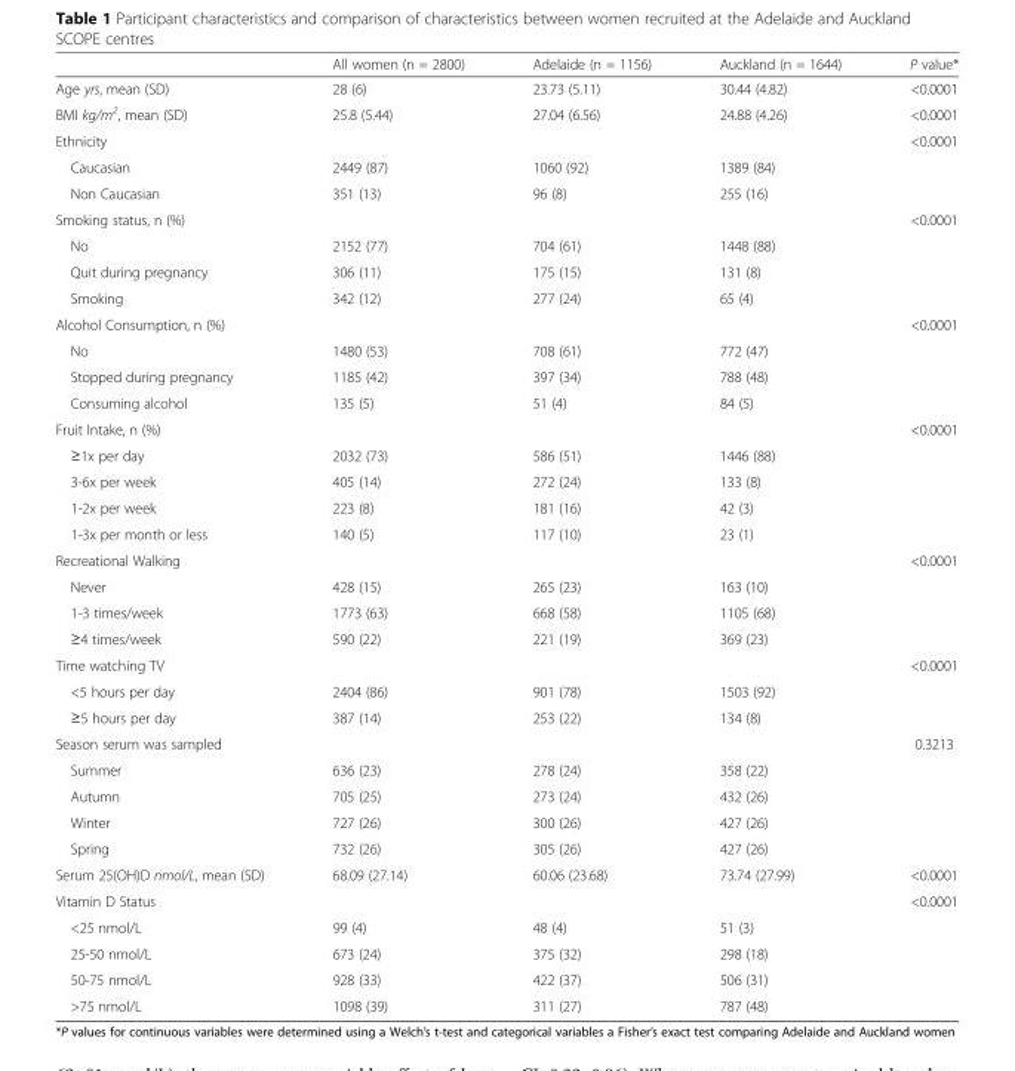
<table><thead><tr><td></td><td>All women (n = 2800)</td><td>Adelaide (n = 1156)</td><td>Auckland (n = 1644)</td><td>P value*</td></tr></thead><tbody><tr><td>Age yrs, mean (SD)</td><td>28 (6)</td><td>23.73 (5.11)</td><td>30.44 (4.82)</td><td>&lt;0.0001</td></tr><tr><td>BMI kg/m<sup>2</sup>, mean (SD)</td><td>25.8 (5.44)</td><td>27.04 (6.56)</td><td>24.88 (4.26)</td><td>&lt;0.0001</td></tr><tr><td>Ethnicity</td><td></td><td></td><td></td><td>&lt;0.0001</td></tr><tr><td>Caucasian</td><td>2449 (87)</td><td>1060 (92)</td><td>1389 (84)</td><td></td></tr><tr><td>Non Caucasian</td><td>351 (13)</td><td>96 (8)</td><td>255 (16)</td><td></td></tr><tr><td>Smoking status, n (%)</td><td></td><td></td><td></td><td>&lt;0.0001</td></tr><tr><td>No</td><td>2152 (77)</td><td>704 (61)</td><td>1448 (88)</td><td></td></tr><tr><td>Quit during pregnancy</td><td>306 (11)</td><td>175 (15)</td><td>131 (8)</td><td></td></tr><tr><td>Smoking</td><td>342 (12)</td><td>277 (24)</td><td>65 (4)</td><td></td></tr><tr><td>Alcohol Consumption, n (%)</td><td></td><td></td><td></td><td>&lt;0.0001</td></tr><tr><td>No</td><td>1480 (53)</td><td>708 (61)</td><td>772 (47)</td><td></td></tr><tr><td>Stopped during pregnancy</td><td>1185 (42)</td><td>397 (34)</td><td>788 (48)</td><td></td></tr><tr><td>Consuming alcohol</td><td>135 (5)</td><td>51 (4)</td><td>84 (5)</td><td></td></tr><tr><td>Fruit Intake, n (%)</td><td></td><td></td><td></td><td>&lt;0.0001</td></tr><tr><td>≥1x per day</td><td>2032 (73)</td><td>586 (51)</td><td>1446 (88)</td><td></td></tr><tr><td>3-6x per week</td><td>405 (14)</td><td>272 (24)</td><td>133 (8)</td><td></td></tr><tr><td>1-2x per week</td><td>223 (8)</td><td>181 (16)</td><td>42 (3)</td><td></td></tr><tr><td>1-3x per month or less</td><td>140 (5)</td><td>117 (10)</td><td>23 (1)</td><td></td></tr><tr><td>Recreational Walking</td><td></td><td></td><td></td><td>&lt;0.0001</td></tr><tr><td>Never</td><td>428 (15)</td><td>265 (23)</td><td>163 (10)</td><td></td></tr><tr><td>1-3 times/week</td><td>1773 (63)</td><td>668 (58)</td><td>1105 (68)</td><td></td></tr><tr><td>≥4 times/week</td><td>590 (22)</td><td>221 (19)</td><td>369 (23)</td><td></td></tr><tr><td>Time watching TV</td><td></td><td></td><td></td><td>&lt;0.0001</td></tr><tr><td>&lt;5 hours per day</td><td>2404 (86)</td><td>901 (78)</td><td>1503 (92)</td><td></td></tr><tr><td>≥5 hours per day</td><td>387 (14)</td><td>253 (22)</td><td>134 (8)</td><td></td></tr><tr><td>Season serum was sampled</td><td></td><td></td><td></td><td>0.3213</td></tr><tr><td>Summer</td><td>636 (23)</td><td>278 (24)</td><td>358 (22)</td><td></td></tr><tr><td>Autumn</td><td>705 (25)</td><td>273 (24)</td><td>432 (26)</td><td></td></tr><tr><td>Winter</td><td>727 (26)</td><td>300 (26)</td><td>427 (26)</td><td></td></tr><tr><td>Spring</td><td>732 (26)</td><td>305 (26)</td><td>427 (26)</td><td></td></tr><tr><td>Serum 25(OH)D nmol/L, mean (SD)</td><td>68.09 (27.14)</td><td>60.06 (23.68)</td><td>73.74 (27.99)</td><td>&lt;0.0001</td></tr><tr><td>Vitamin D Status</td><td></td><td></td><td></td><td>&lt;0.0001</td></tr><tr><td>&lt;25 nmol/L</td><td>99 (4)</td><td>48 (4)</td><td>51 (3)</td><td></td></tr><tr><td>25-50 nmol/L</td><td>673 (24)</td><td>375 (32)</td><td>298 (18)</td><td></td></tr><tr><td>50-75 nmol/L</td><td>928 (33)</td><td>422 (37)</td><td>506 (31)</td><td></td></tr><tr><td>&gt;75 nmol/L</td><td>1098 (39)</td><td>311 (27)</td><td>787 (48)</td><td></td></tr></tbody></table>